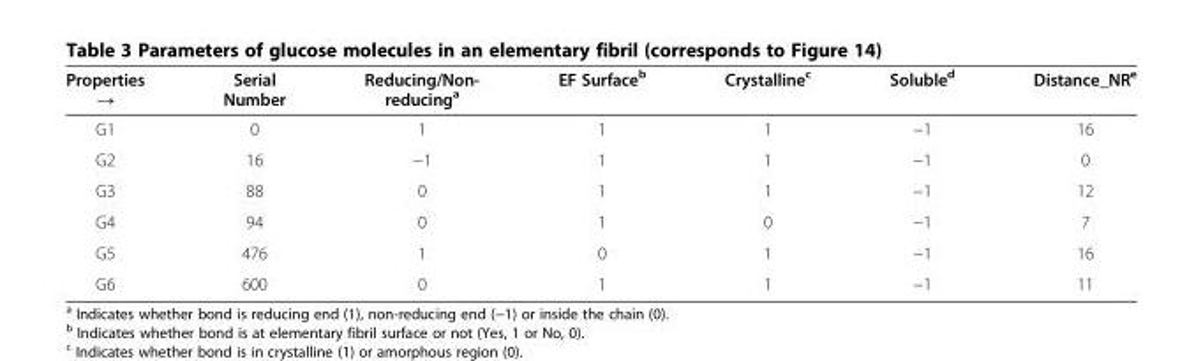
<table><thead><tr><td>Properties →</td><td>Serial Number</td><td>Reducing/Non- reducing<sup>a</sup></td><td>EF Surface<sup>b</sup></td><td>Crystalline<sup>c</sup></td><td>Soluble<sup>d</sup></td><td>Distance_NR<sup>e</sup></td></tr></thead><tbody><tr><td>G1</td><td>0</td><td>1</td><td>1</td><td>1</td><td>−1</td><td>16</td></tr><tr><td>G2</td><td>16</td><td>−1</td><td>1</td><td>1</td><td>−1</td><td>0</td></tr><tr><td>G3</td><td>88</td><td>0</td><td>1</td><td>1</td><td>−1</td><td>12</td></tr><tr><td>G4</td><td>94</td><td>0</td><td>1</td><td>0</td><td>−1</td><td>7</td></tr><tr><td>G5</td><td>476</td><td>1</td><td>0</td><td>1</td><td>−1</td><td>16</td></tr><tr><td>G6</td><td>600</td><td>0</td><td>1</td><td>1</td><td>−1</td><td>11</td></tr></tbody></table>